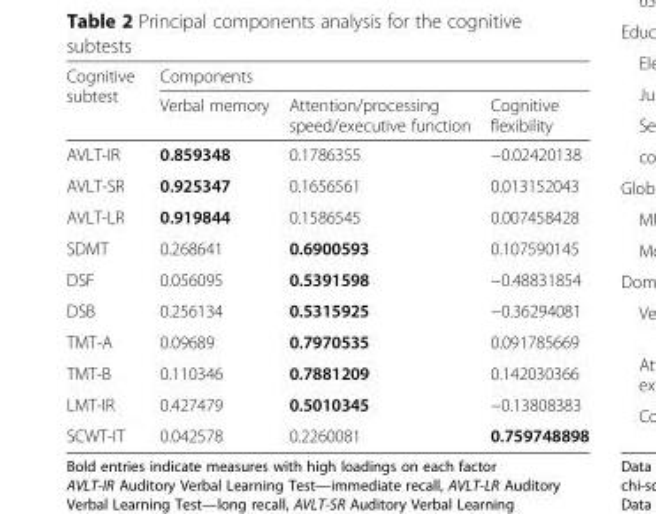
<table><thead><tr><td rowspan="2">Cognitive subtest</td><td colspan="3">Components</td></tr><tr><td>Verbal memory</td><td>Attention/processing speed/executive function</td><td>Cognitive flexibility</td></tr></thead><tbody><tr><td>AVLT-IR</td><td>0.859348</td><td>0.1786355</td><td>−0.02420138</td></tr><tr><td>AVLT-SR</td><td>0.925347</td><td>0.1656561</td><td>0.013152043</td></tr><tr><td>AVLT-LR</td><td>0.919844</td><td>0.1586545</td><td>0.007458428</td></tr><tr><td>SDMT</td><td>0.268641</td><td>0.6900593</td><td>0.107590145</td></tr><tr><td>DSF</td><td>0.056095</td><td>0.5391598</td><td>−0.48831854</td></tr><tr><td>DSB</td><td>0.256134</td><td>0.5315925</td><td>−0.36294081</td></tr><tr><td>TMT-A</td><td>0.09689</td><td>0.7970535</td><td>0.091785669</td></tr><tr><td>TMT-B</td><td>0.110346</td><td>0.7881209</td><td>0.142030366</td></tr><tr><td>LMT-IR</td><td>0.427479</td><td>0.5010345</td><td>−0.13808383</td></tr><tr><td>SCWT-IT</td><td>0.042578</td><td>0.2260081</td><td>0.759748898</td></tr></tbody></table>